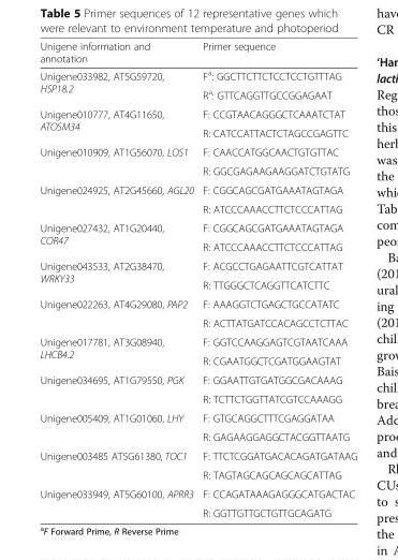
<table><thead><tr><td>Unigene information and annotation</td><td>Primer sequence</td></tr></thead><tbody><tr><td rowspan="2">Unigene033982, AT5G59720, HSP18.2</td><td>F<sup>a</sup>: GGCTTCTTCTCCTCCTGTTTAG</td></tr><tr><td>R<sup>a</sup>: GTTCAGGTTGCCGGAGAAT</td></tr><tr><td rowspan="2">Unigene010777, AT4G11650, ATOSM34</td><td>F: CCGTAACAGGGCTCAAATCTAT</td></tr><tr><td>R: CATCCATTACTCTAGCCGAGTTC</td></tr><tr><td rowspan="2">Unigene010909, AT1G56070, LOS1</td><td>F: CAACCATGGCAACTGTGTTAC</td></tr><tr><td>R: GGCGAGAAGAAGGATCTGTATG</td></tr><tr><td rowspan="2">Unigene024925, AT2G45660, AGL20</td><td>F: CGGCAGCGATGAAATAGTAGA</td></tr><tr><td>R: ATCCCAAACCTTCTCCCATTAG</td></tr><tr><td rowspan="2">Unigene027432, AT1G20440, COR47</td><td>F: CGGCAGCGATGAAATAGTAGA</td></tr><tr><td>R: ATCCCAAACCTTCTCCCATTAG</td></tr><tr><td rowspan="2">Unigene043533, AT2G38470, WRKY33</td><td>F: ACGCCTGAGAATTCGTCATTAT</td></tr><tr><td>R: TTGGGCTCAGGTTCATCTTC</td></tr><tr><td rowspan="2">Unigene022263, AT4G29080, PAP2</td><td>F: AAAGGTCTGAGCTGCCATATC</td></tr><tr><td>R: ACTTATGATCCACAGCCTCTTAC</td></tr><tr><td rowspan="2">Unigene017781, AT3G08940, LHCB4.2</td><td>F: GGTCCAAGGAGTCGTAATCAAA</td></tr><tr><td>R: CGAATGGCTCGATGGAAGTAT</td></tr><tr><td rowspan="2">Unigene034695, AT1G79550, PGK</td><td>F: GGAATTGTGATGGCGACAAAG</td></tr><tr><td>R: TCTTCTGGTTATCGTCCAAAGG</td></tr><tr><td rowspan="2">Unigene005409, AT1G01060, LHY</td><td>F: GTGCAGGCTTTCGAGGATAA</td></tr><tr><td>R: GAGAAGGAGGCTACGGTTAATG</td></tr><tr><td rowspan="2">Unigene003485 AT5G61380, TOC1</td><td>F: TTCTCGGATGACACAGATGATAAG</td></tr><tr><td>R: TAGTAGCAGCAGCAGCATTAG</td></tr><tr><td rowspan="2">Unigene033949, AT5G60100, APRR3</td><td>F: CCAGATAAAGAGGGCATGACTAC</td></tr><tr><td>R: GGTTGTTGCTGTTGCAGATG</td></tr></tbody></table>